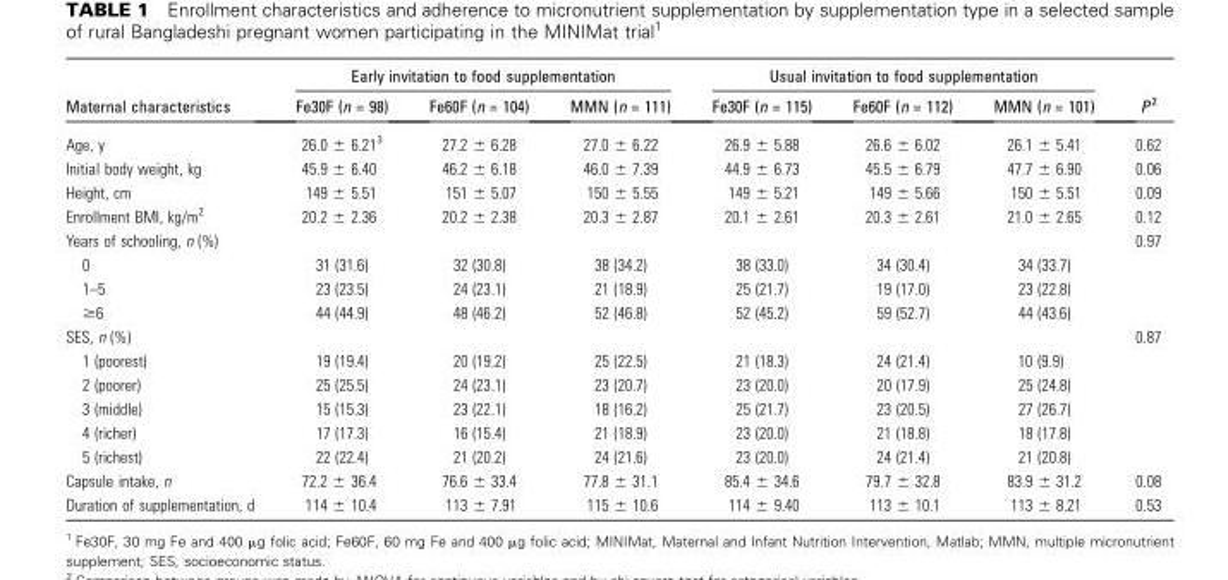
<table><thead><tr><td rowspan="2">Maternal characteristics</td><td colspan="3">Early invitation to food supplementation</td><td colspan="3">Usual invitation to food supplementation</td><td rowspan="2">P <sup>2</sup></td></tr><tr><td>Fe30F (n = 98)</td><td>Fe60F (n = 104)</td><td>MMN (n = 111)</td><td>Fe30F (n = 115)</td><td>Fe60F (n = 112)</td><td>MMN (n = 101)</td></tr></thead><tbody><tr><td>Age, y</td><td>26.0 ± 6.21<sup>3</sup></td><td>27.2 ± 6.28</td><td>27.0 ± 6.22</td><td>26.9 ± 5.88</td><td>26.6 ± 6.02</td><td>26.1 ± 5.41</td><td>0.62</td></tr><tr><td>Initial body weight, kg</td><td>45.9 ± 6.40</td><td>46.2 ± 6.18</td><td>46.0 ± 7.39</td><td>44.9 ± 6.73</td><td>45.5 ± 6.79</td><td>47.7 ± 6.90</td><td>0.06</td></tr><tr><td>Height, cm</td><td>149 ± 5.51</td><td>151 ± 5.07</td><td>150 ± 5.55</td><td>149 ± 5.21</td><td>149 ± 5.66</td><td>150 ± 5.51</td><td>0.09</td></tr><tr><td>Enrollment BMI, kg/m<sup>2</sup></td><td>20.2 ± 2.36</td><td>20.2 ± 2.38</td><td>20.3 ± 2.87</td><td>20.1 ± 2.61</td><td>20.3 ± 2.61</td><td>21.0 ± 2.65</td><td>0.12</td></tr><tr><td>Years of schooling, n (%)</td><td></td><td></td><td></td><td></td><td></td><td></td><td>0.97</td></tr><tr><td>0</td><td>31 (31.6)</td><td>32 (30.8)</td><td>38 (34.2)</td><td>38 (33.0)</td><td>34 (30.4)</td><td>34 (33.7)</td><td></td></tr><tr><td>1–5</td><td>23 (23.5)</td><td>24 (23.1)</td><td>21 (18.9)</td><td>25 (21.7)</td><td>19 (17.0)</td><td>23 (22.8)</td><td></td></tr><tr><td>≥6</td><td>44 (44.9)</td><td>48 (46.2)</td><td>52 (46.8)</td><td>52 (45.2)</td><td>59 (52.7)</td><td>44 (43.6)</td><td></td></tr><tr><td>SES, n (%)</td><td></td><td></td><td></td><td></td><td></td><td></td><td>0.87</td></tr><tr><td>1 (poorest)</td><td>19 (19.4)</td><td>20 (19.2)</td><td>25 (22.5)</td><td>21 (18.3)</td><td>24 (21.4)</td><td>10 (9.9)</td><td></td></tr><tr><td>2 (poorer)</td><td>25 (25.5)</td><td>24 (23.1)</td><td>23 (20.7)</td><td>23 (20.0)</td><td>20 (17.9)</td><td>25 (24.8)</td><td></td></tr><tr><td>3 (middle)</td><td>15 (15.3)</td><td>23 (22.1)</td><td>18 (16.2)</td><td>25 (21.7)</td><td>23 (20.5)</td><td>27 (26.7)</td><td></td></tr><tr><td>4 (richer)</td><td>17 (17.3)</td><td>16 (15.4)</td><td>21 (18.9)</td><td>23 (20.0)</td><td>21 (18.8)</td><td>18 (17.8)</td><td></td></tr><tr><td>5 (richest)</td><td>22 (22.4)</td><td>21 (20.2)</td><td>24 (21.6)</td><td>23 (20.0)</td><td>24 (21.4)</td><td>21 (20.8)</td><td></td></tr><tr><td>Capsule intake, n</td><td>72.2 ± 36.4</td><td>76.6 ± 33.4</td><td>77.8 ± 31.1</td><td>85.4 ± 34.6</td><td>79.7 ± 32.8</td><td>83.9 ± 31.2</td><td>0.08</td></tr><tr><td>Duration of supplementation, d</td><td>114 ± 10.4</td><td>113 ± 7.91</td><td>115 ± 10.6</td><td>114 ± 9.40</td><td>113 ± 10.1</td><td>113 ± 8.21</td><td>0.53</td></tr></tbody></table>